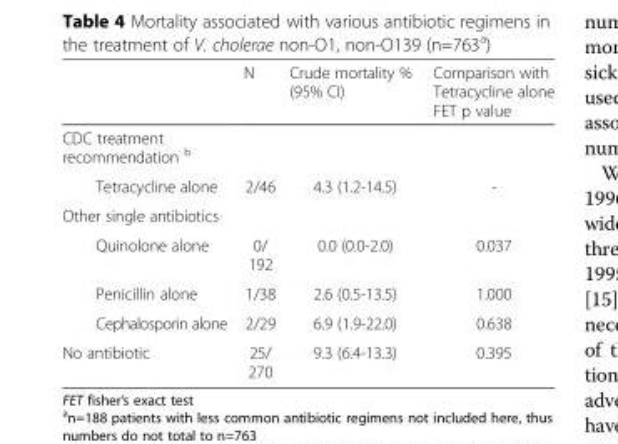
<table><thead><tr><td></td><td>N</td><td>Crude mortality % (95% CI)</td><td>Comparison with Tetracycline alone FET p value</td></tr></thead><tbody><tr><td colspan="4">CDC treatment recommendation <sup>b</sup></td></tr><tr><td>Tetracycline alone</td><td>2/46</td><td>4.3 (1.2-14.5)</td><td>-</td></tr><tr><td colspan="4">Other single antibiotics</td></tr><tr><td>Quinolone alone</td><td>0/ 192</td><td>0.0 (0.0-2.0)</td><td>0.037</td></tr><tr><td>Penicillin alone</td><td>1/38</td><td>2.6 (0.5-13.5)</td><td>1.000</td></tr><tr><td>Cephalosporin alone</td><td>2/29</td><td>6.9 (1.9-22.0)</td><td>0.638</td></tr><tr><td>No antibiotic</td><td>25/ 270</td><td>9.3 (6.4-13.3)</td><td>0.395</td></tr></tbody></table>